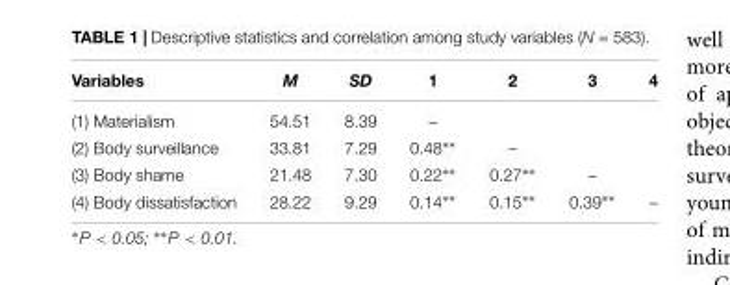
<table><thead><tr><td>Variables</td><td>M</td><td>SD</td><td>1</td><td>2</td><td>3</td><td>4</td></tr></thead><tbody><tr><td>(1) Materialism</td><td>54.51</td><td>8.39</td><td>–</td><td></td><td></td><td></td></tr><tr><td>(2) Body surveillance</td><td>33.81</td><td>7.29</td><td>0.48∗∗</td><td>–</td><td></td><td></td></tr><tr><td>(3) Body shame</td><td>21.48</td><td>7.30</td><td>0.22∗∗</td><td>0.27∗∗</td><td>–</td><td></td></tr><tr><td>(4) Body dissatisfaction</td><td>28.22</td><td>9.29</td><td>0.14∗∗</td><td>0.15∗∗</td><td>0.39∗∗</td><td>–</td></tr></tbody></table>